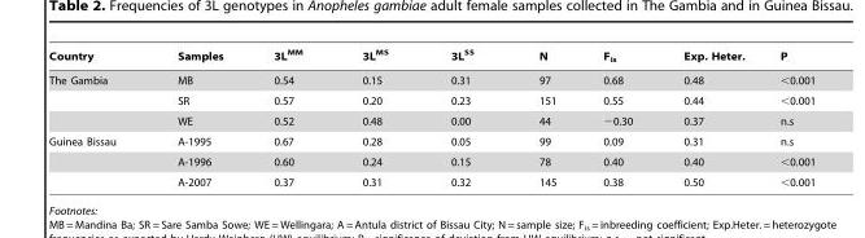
<table><thead><tr><td>Country</td><td>Samples</td><td>3L<sup>MM</sup></td><td>3L<sup>MS</sup></td><td>3L<sup>SS</sup></td><td>N</td><td>F<sub>is</sub></td><td>Exp. Heter.</td><td>P</td></tr></thead><tbody><tr><td rowspan="3">The Gambia</td><td>MB</td><td>0.54</td><td>0.15</td><td>0.31</td><td>97</td><td>0.68</td><td>0.48</td><td>&lt;0.001</td></tr><tr><td>SR</td><td>0.57</td><td>0.20</td><td>0.23</td><td>151</td><td>0.55</td><td>0.44</td><td>&lt;0.001</td></tr><tr><td>WE</td><td>0.52</td><td>0.48</td><td>0.00</td><td>44</td><td>−0.30</td><td>0.37</td><td>n.s</td></tr><tr><td rowspan="3">Guinea Bissau</td><td>A-1995</td><td>0.67</td><td>0.28</td><td>0.05</td><td>99</td><td>0.09</td><td>0.31</td><td>n.s</td></tr><tr><td>A-1996</td><td>0.60</td><td>0.24</td><td>0.15</td><td>78</td><td>0.40</td><td>0.40</td><td>&lt;0.001</td></tr><tr><td>A-2007</td><td>0.37</td><td>0.31</td><td>0.32</td><td>145</td><td>0.38</td><td>0.50</td><td>&lt;0.001</td></tr></tbody></table>